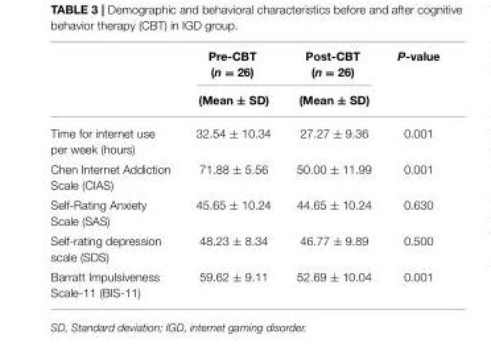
<table><thead><tr><td rowspan="2"></td><td rowspan="2">Pre-CBT (n = 26) (Mean ± SD)</td><td rowspan="2">Post-CBT (n = 26) (Mean ± SD)</td><td rowspan="2">P-value</td></tr><tr></tr></thead><tbody><tr><td>Time for internet use per week (hours)</td><td>32.54 ± 10.34</td><td>27.27 ± 9.36</td><td>0.001</td></tr><tr><td>Chen Internet Addiction Scale (CIAS)</td><td>71.88 ± 5.56</td><td>50.00 ± 11.99</td><td>0.001</td></tr><tr><td>Self-Rating Anxiety Scale (SAS)</td><td>45.65 ± 10.24</td><td>44.65 ± 10.24</td><td>0.630</td></tr><tr><td>Self-rating depression scale (SDS)</td><td>48.23 ± 8.34</td><td>46.77 ± 9.89</td><td>0.500</td></tr><tr><td>Barratt Impulsiveness Scale-11 (BIS-11)</td><td>59.62 ± 9.11</td><td>52.69 ± 10.04</td><td>0.001</td></tr></tbody></table>